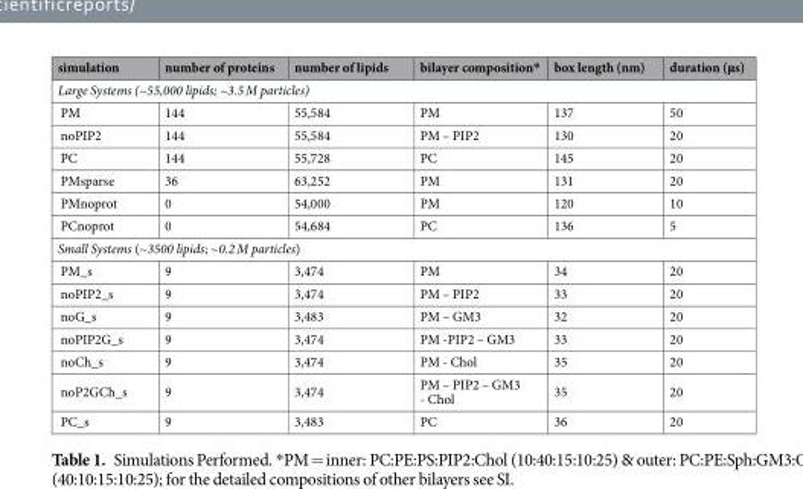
<table><thead><tr><td>simulation</td><td>number of proteins</td><td>number of lipids</td><td>bilayer composition*</td><td>box length (nm)</td><td>duration (µs)</td></tr></thead><tbody><tr><td colspan="6">Large Systems (~55,000 lipids; ~3.5 M particles)</td></tr><tr><td>PM</td><td>144</td><td>55,584</td><td>PM</td><td>137</td><td>50</td></tr><tr><td>noPIP2</td><td>144</td><td>55,584</td><td>PM – PIP2</td><td>130</td><td>20</td></tr><tr><td>PC</td><td>144</td><td>55,728</td><td>PC</td><td>145</td><td>20</td></tr><tr><td>PMsparse</td><td>36</td><td>63,252</td><td>PM</td><td>131</td><td>20</td></tr><tr><td>PMnoprot</td><td>0</td><td>54,000</td><td>PM</td><td>120</td><td>10</td></tr><tr><td>PCnoprot</td><td>0</td><td>54,684</td><td>PC</td><td>136</td><td>5</td></tr><tr><td colspan="6">Small Systems (~3500 lipids; ~0.2 M particles)</td></tr><tr><td>PM_s</td><td>9</td><td>3,474</td><td>PM</td><td>34</td><td>20</td></tr><tr><td>noPIP2_s</td><td>9</td><td>3,474</td><td>PM – PIP2</td><td>33</td><td>20</td></tr><tr><td>noG_s</td><td>9</td><td>3,483</td><td>PM – GM3</td><td>32</td><td>20</td></tr><tr><td>noPIP2G_s</td><td>9</td><td>3,474</td><td>PM -PIP2 – GM3</td><td>33</td><td>20</td></tr><tr><td>noCh_s</td><td>9</td><td>3,474</td><td>PM - Chol</td><td>35</td><td>20</td></tr><tr><td>noP2GCh_s</td><td>9</td><td>3,474</td><td>PM – PIP2 – GM3 - Chol</td><td>35</td><td>20</td></tr><tr><td>PC_s</td><td>9</td><td>3,483</td><td>PC</td><td>36</td><td>20</td></tr></tbody></table>